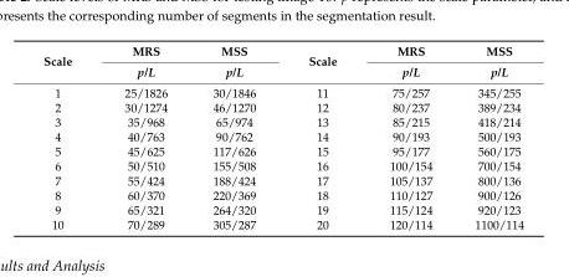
<table><thead><tr><td rowspan="2">Scale</td><td rowspan="2">MRS p/L</td><td rowspan="2">MSS p/L</td><td rowspan="2">Scale</td><td rowspan="2">MRS p/L</td><td rowspan="2">MSS p/L</td></tr><tr></tr></thead><tbody><tr><td>1</td><td>25/1826</td><td>30/1846</td><td>11</td><td>75/257</td><td>345/255</td></tr><tr><td>2</td><td>30/1274</td><td>46/1270</td><td>12</td><td>80/237</td><td>389/234</td></tr><tr><td>3</td><td>35/968</td><td>65/974</td><td>13</td><td>85/215</td><td>418/214</td></tr><tr><td>4</td><td>40/763</td><td>90/762</td><td>14</td><td>90/193</td><td>500/193</td></tr><tr><td>5</td><td>45/625</td><td>117/626</td><td>15</td><td>95/177</td><td>560/175</td></tr><tr><td>6</td><td>50/510</td><td>155/508</td><td>16</td><td>100/154</td><td>700/154</td></tr><tr><td>7</td><td>55/424</td><td>188/424</td><td>17</td><td>105/137</td><td>800/136</td></tr><tr><td>8</td><td>60/370</td><td>220/369</td><td>18</td><td>110/127</td><td>900/126</td></tr><tr><td>9</td><td>65/321</td><td>264/320</td><td>19</td><td>115/124</td><td>920/123</td></tr><tr><td>10</td><td>70/289</td><td>305/287</td><td>20</td><td>120/114</td><td>1100/114</td></tr></tbody></table>